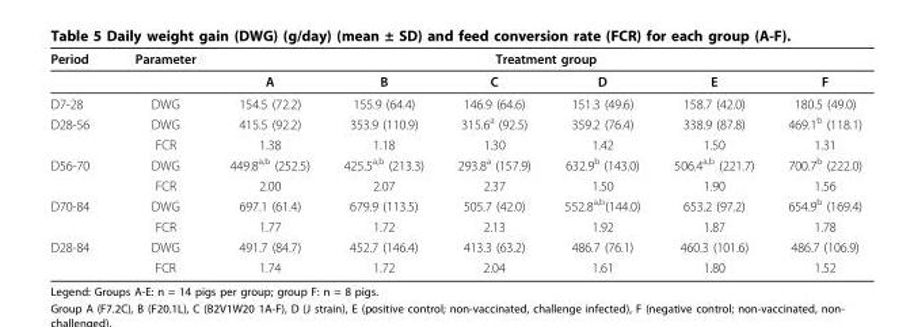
<table><thead><tr><td rowspan="2">Period</td><td rowspan="2">Parameter</td><td colspan="6">Treatment group</td></tr><tr><td>A</td><td>B</td><td>C</td><td>D</td><td>E</td><td>F</td></tr></thead><tbody><tr><td>D7-28</td><td>DWG</td><td>154.5 (72.2)</td><td>155.9 (64.4)</td><td>146.9 (64.6)</td><td>151.3 (49.6)</td><td>158.7 (42.0)</td><td>180.5 (49.0)</td></tr><tr><td rowspan="2">D28-56</td><td>DWG</td><td>415.5 (92.2)</td><td>353.9 (110.9)</td><td>315.6<sup>a</sup> (92.5)</td><td>359.2 (76.4)</td><td>338.9 (87.8)</td><td>469.1<sup>b</sup> (118.1)</td></tr><tr><td>FCR</td><td>1.38</td><td>1.18</td><td>1.30</td><td>1.42</td><td>1.50</td><td>1.31</td></tr><tr><td rowspan="2">D56-70</td><td>DWG</td><td>449.8<sup>a,b</sup> (252.5)</td><td>425.5<sup>a,b</sup> (213.3)</td><td>293.8<sup>a</sup> (157.9)</td><td>632.9<sup>b</sup> (143.0)</td><td>506.4<sup>a,b</sup> (221.7)</td><td>700.7<sup>b</sup> (222.0)</td></tr><tr><td>FCR</td><td>2.00</td><td>2.07</td><td>2.37</td><td>1.50</td><td>1.90</td><td>1.56</td></tr><tr><td rowspan="2">D70-84</td><td>DWG</td><td>697.1 (61.4)</td><td>679.9 (113.5)</td><td>505.7 (42.0)</td><td>552.8<sup>a,b</sup>(144.0)</td><td>653.2 (97.2)</td><td>654.9<sup>b</sup> (169.4)</td></tr><tr><td>FCR</td><td>1.77</td><td>1.72</td><td>2.13</td><td>1.92</td><td>1.87</td><td>1.78</td></tr><tr><td rowspan="2">D28-84</td><td>DWG</td><td>491.7 (84.7)</td><td>452.7 (146.4)</td><td>413.3 (63.2)</td><td>486.7 (76.1)</td><td>460.3 (101.6)</td><td>486.7 (106.9)</td></tr><tr><td>FCR</td><td>1.74</td><td>1.72</td><td>2.04</td><td>1.61</td><td>1.80</td><td>1.52</td></tr></tbody></table>